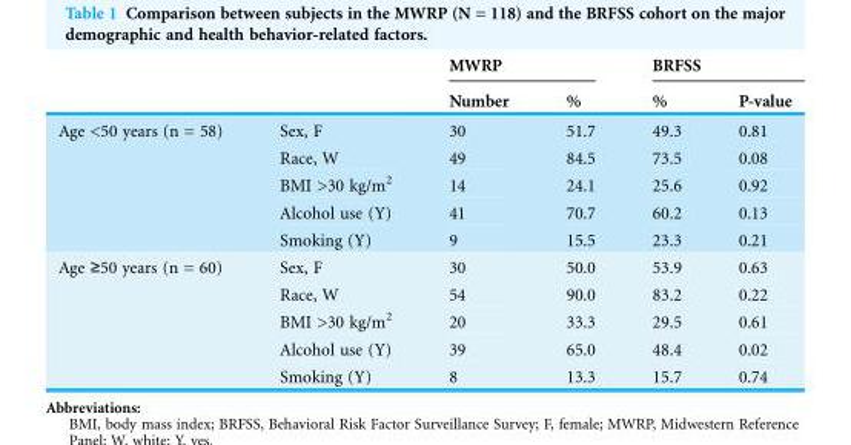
<table><thead><tr><td rowspan="2"></td><td rowspan="2"></td><td colspan="2">MWRP</td><td rowspan="2">BRFSS %</td><td rowspan="2">P-value</td></tr><tr><td>Number</td><td>%</td></tr></thead><tbody><tr><td rowspan="5">Age &lt;50 years (n = 58)</td><td>Sex, F</td><td>30</td><td>51.7</td><td>49.3</td><td>0.81</td></tr><tr><td>Race, W</td><td>49</td><td>84.5</td><td>73.5</td><td>0.08</td></tr><tr><td>BMI &gt;30 kg/m<sup>2</sup></td><td>14</td><td>24.1</td><td>25.6</td><td>0.92</td></tr><tr><td>Alcohol use (Y)</td><td>41</td><td>70.7</td><td>60.2</td><td>0.13</td></tr><tr><td>Smoking (Y)</td><td>9</td><td>15.5</td><td>23.3</td><td>0.21</td></tr><tr><td rowspan="5">Age ≥50 years (n = 60)</td><td>Sex, F</td><td>30</td><td>50.0</td><td>53.9</td><td>0.63</td></tr><tr><td>Race, W</td><td>54</td><td>90.0</td><td>83.2</td><td>0.22</td></tr><tr><td>BMI &gt;30 kg/m<sup>2</sup></td><td>20</td><td>33.3</td><td>29.5</td><td>0.61</td></tr><tr><td>Alcohol use (Y)</td><td>39</td><td>65.0</td><td>48.4</td><td>0.02</td></tr><tr><td>Smoking (Y)</td><td>8</td><td>13.3</td><td>15.7</td><td>0.74</td></tr></tbody></table>